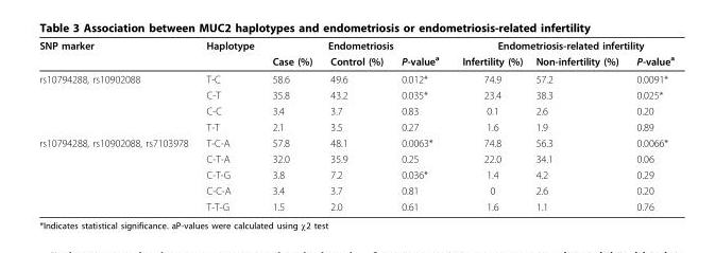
<table><thead><tr><td rowspan="2">SNP marker</td><td rowspan="2">Haplotype</td><td colspan="3">Endometriosis</td><td colspan="3">Endometriosis-related infertility</td></tr><tr><td>Case (%)</td><td>Control (%)</td><td>P-value<sup>a</sup></td><td>Infertility (%)</td><td>Non-infertility (%)</td><td>P-value<sup>a</sup></td></tr></thead><tbody><tr><td rowspan="4">rs10794288, rs10902088</td><td>T-C</td><td>58.6</td><td>49.6</td><td>0.012*</td><td>74.9</td><td>57.2</td><td>0.0091*</td></tr><tr><td>C-T</td><td>35.8</td><td>43.2</td><td>0.035*</td><td>23.4</td><td>38.3</td><td>0.025*</td></tr><tr><td>C-C</td><td>3.4</td><td>3.7</td><td>0.83</td><td>0.1</td><td>2.6</td><td>0.20</td></tr><tr><td>T-T</td><td>2.1</td><td>3.5</td><td>0.27</td><td>1.6</td><td>1.9</td><td>0.89</td></tr><tr><td rowspan="5">rs10794288, rs10902088, rs7103978</td><td>T-C-A</td><td>57.8</td><td>48.1</td><td>0.0063*</td><td>74.8</td><td>56.3</td><td>0.0066*</td></tr><tr><td>C-T-A</td><td>32.0</td><td>35.9</td><td>0.25</td><td>22.0</td><td>34.1</td><td>0.06</td></tr><tr><td>C-T-G</td><td>3.8</td><td>7.2</td><td>0.036*</td><td>1.4</td><td>4.2</td><td>0.29</td></tr><tr><td>C-C-A</td><td>3.4</td><td>3.7</td><td>0.81</td><td>0</td><td>2.6</td><td>0.20</td></tr><tr><td>T-T-G</td><td>1.5</td><td>2.0</td><td>0.61</td><td>1.6</td><td>1.1</td><td>0.76</td></tr></tbody></table>